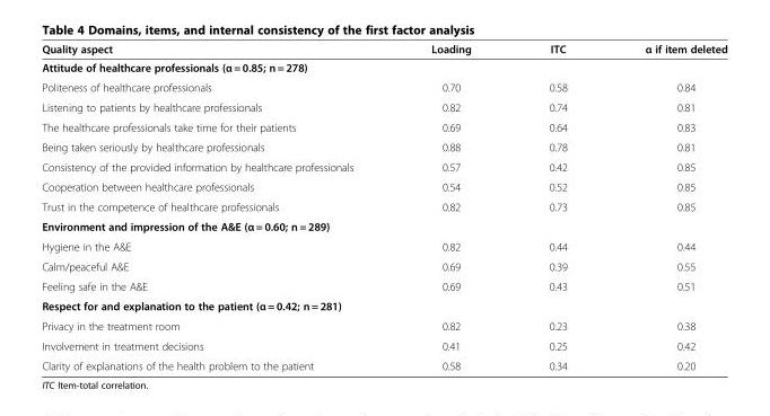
<table><thead><tr><td>Quality aspect</td><td>Loading</td><td>ITC</td><td>α if item deleted</td></tr></thead><tbody><tr><td colspan="4">Attitude of healthcare professionals (α = 0.85; n = 278)</td></tr><tr><td>Politeness of healthcare professionals</td><td>0.70</td><td>0.58</td><td>0.84</td></tr><tr><td>Listening to patients by healthcare professionals</td><td>0.82</td><td>0.74</td><td>0.81</td></tr><tr><td>The healthcare professionals take time for their patients</td><td>0.69</td><td>0.64</td><td>0.83</td></tr><tr><td>Being taken seriously by healthcare professionals</td><td>0.88</td><td>0.78</td><td>0.81</td></tr><tr><td>Consistency of the provided information by healthcare professionals</td><td>0.57</td><td>0.42</td><td>0.85</td></tr><tr><td>Cooperation between healthcare professionals</td><td>0.54</td><td>0.52</td><td>0.85</td></tr><tr><td>Trust in the competence of healthcare professionals</td><td>0.82</td><td>0.73</td><td>0.85</td></tr><tr><td colspan="4">Environment and impression of the A&amp;E (α = 0.60; n = 289)</td></tr><tr><td>Hygiene in the A&amp;E</td><td>0.82</td><td>0.44</td><td>0.44</td></tr><tr><td>Calm/peaceful A&amp;E</td><td>0.69</td><td>0.39</td><td>0.55</td></tr><tr><td>Feeling safe in the A&amp;E</td><td>0.69</td><td>0.43</td><td>0.51</td></tr><tr><td colspan="4">Respect for and explanation to the patient (α = 0.42; n = 281)</td></tr><tr><td>Privacy in the treatment room</td><td>0.82</td><td>0.23</td><td>0.38</td></tr><tr><td>Involvement in treatment decisions</td><td>0.41</td><td>0.25</td><td>0.42</td></tr><tr><td>Clarity of explanations of the health problem to the patient</td><td>0.58</td><td>0.34</td><td>0.20</td></tr></tbody></table>